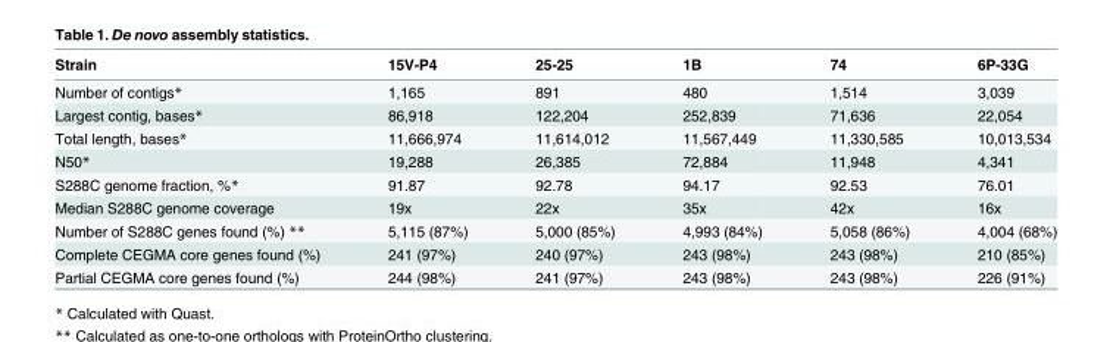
<table><thead><tr><td>Strain</td><td>15V-P4</td><td>25-25</td><td>1B</td><td>74</td><td>6P-33G</td></tr></thead><tbody><tr><td>Number of contigs*</td><td>1,165</td><td>891</td><td>480</td><td>1,514</td><td>3,039</td></tr><tr><td>Largest contig, bases*</td><td>86,918</td><td>122,204</td><td>252,839</td><td>71,636</td><td>22,054</td></tr><tr><td>Total length, bases*</td><td>11,666,974</td><td>11,614,012</td><td>11,567,449</td><td>11,330,585</td><td>10,013,534</td></tr><tr><td>N50*</td><td>19,288</td><td>26,385</td><td>72,884</td><td>11,948</td><td>4,341</td></tr><tr><td>S288C genome fraction, %*</td><td>91.87</td><td>92.78</td><td>94.17</td><td>92.53</td><td>76.01</td></tr><tr><td>Median S288C genome coverage</td><td>19x</td><td>22x</td><td>35x</td><td>42x</td><td>16x</td></tr><tr><td>Number of S288C genes found (%) **</td><td>5,115 (87%)</td><td>5,000 (85%)</td><td>4,993 (84%)</td><td>5,058 (86%)</td><td>4,004 (68%)</td></tr><tr><td>Complete CEGMA core genes found (%)</td><td>241 (97%)</td><td>240 (97%)</td><td>243 (98%)</td><td>243 (98%)</td><td>210 (85%)</td></tr><tr><td>Partial CEGMA core genes found (%)</td><td>244 (98%)</td><td>241 (97%)</td><td>243 (98%)</td><td>243 (98%)</td><td>226 (91%)</td></tr></tbody></table>